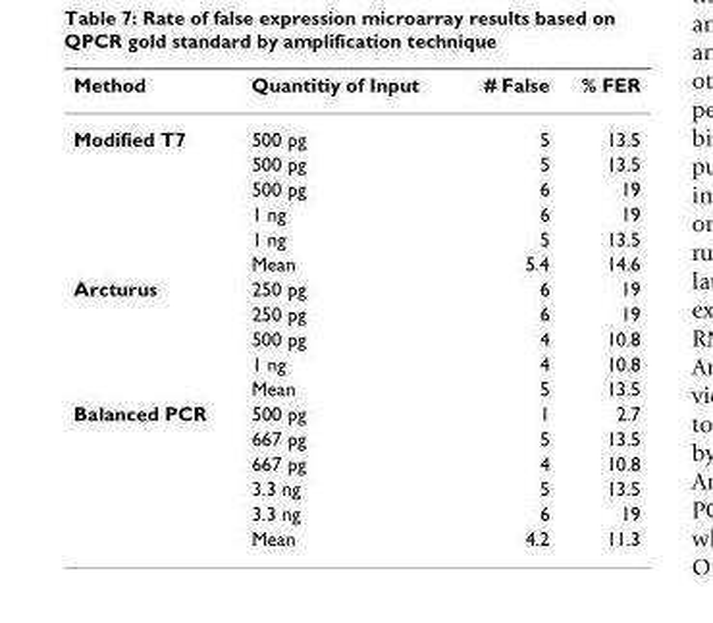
<table><thead><tr><td>Method</td><td>Quantitiy of Input</td><td># False</td><td>% FER</td></tr></thead><tbody><tr><td rowspan="6">Modified T7</td><td>500 pg</td><td>5</td><td>13.5</td></tr><tr><td>500 pg</td><td>5</td><td>13.5</td></tr><tr><td>500 pg</td><td>6</td><td>19</td></tr><tr><td>1 ng</td><td>6</td><td>19</td></tr><tr><td>1 ng</td><td>5</td><td>13.5</td></tr><tr><td>Mean</td><td>5.4</td><td>14.6</td></tr><tr><td rowspan="5">Arcturus</td><td>250 pg</td><td>6</td><td>19</td></tr><tr><td>250 pg</td><td>6</td><td>19</td></tr><tr><td>500 pg</td><td>4</td><td>10.8</td></tr><tr><td>1 ng</td><td>4</td><td>10.8</td></tr><tr><td>Mean</td><td>5</td><td>13.5</td></tr><tr><td rowspan="6">Balanced PCR</td><td>500 pg</td><td>1</td><td>2.7</td></tr><tr><td>667 pg</td><td>5</td><td>13.5</td></tr><tr><td>667 pg</td><td>4</td><td>10.8</td></tr><tr><td>3.3 ng</td><td>5</td><td>13.5</td></tr><tr><td>3.3 ng</td><td>6</td><td>19</td></tr><tr><td>Mean</td><td>4.2</td><td>11.3</td></tr></tbody></table>